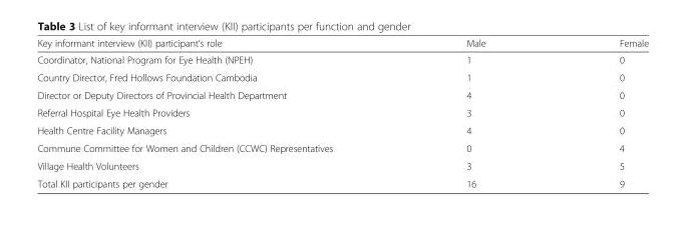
<table><thead><tr><td>Key informant interview (KII) participant’s role</td><td>Male</td><td>Female</td></tr></thead><tbody><tr><td>Coordinator, National Program for Eye Health (NPEH)</td><td>1</td><td>0</td></tr><tr><td>Country Director, Fred Hollows Foundation Cambodia</td><td>1</td><td>0</td></tr><tr><td>Director or Deputy Directors of Provincial Health Department</td><td>4</td><td>0</td></tr><tr><td>Referral Hospital Eye Health Providers</td><td>3</td><td>0</td></tr><tr><td>Health Centre Facility Managers</td><td>4</td><td>0</td></tr><tr><td>Commune Committee for Women and Children (CCWC) Representatives</td><td>0</td><td>4</td></tr><tr><td>Village Health Volunteers</td><td>3</td><td>5</td></tr><tr><td>Total KII participants per gender</td><td>16</td><td>9</td></tr></tbody></table>